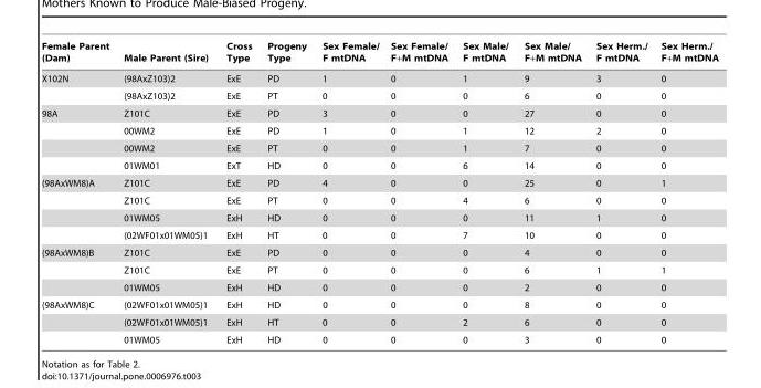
<table><thead><tr><td>Female Parent (Dam)</td><td>Male Parent (Sire)</td><td>Cross Type</td><td>Progeny Type</td><td>Sex Female/ F mtDNA</td><td>Sex Female/ F+M mtDNA</td><td>Sex Male/ F mtDNA</td><td>Sex Male/ F+M mtDNA</td><td>Sex Herm./ F mtDNA</td><td>Sex Herm./ F+M mtDNA</td></tr></thead><tbody><tr><td rowspan="2">X102N</td><td>(98AxZ103)2</td><td>ExE</td><td>PD</td><td>1</td><td>0</td><td>1</td><td>9</td><td>3</td><td>0</td></tr><tr><td>(98AxZ103)2</td><td>ExE</td><td>PT</td><td>0</td><td>0</td><td>0</td><td>6</td><td>0</td><td>0</td></tr><tr><td rowspan="4">98A</td><td>Z101C</td><td>ExE</td><td>PD</td><td>3</td><td>0</td><td>0</td><td>27</td><td>0</td><td>0</td></tr><tr><td>00WM2</td><td>ExE</td><td>PD</td><td>1</td><td>0</td><td>1</td><td>12</td><td>2</td><td>0</td></tr><tr><td>00WM2</td><td>ExE</td><td>PT</td><td>0</td><td>0</td><td>1</td><td>7</td><td>0</td><td>0</td></tr><tr><td>01WM01</td><td>ExT</td><td>HD</td><td>0</td><td>0</td><td>6</td><td>14</td><td>0</td><td>0</td></tr><tr><td rowspan="4">(98AxWM8)A</td><td>Z101C</td><td>ExE</td><td>PD</td><td>4</td><td>0</td><td>0</td><td>25</td><td>0</td><td>1</td></tr><tr><td>Z101C</td><td>ExE</td><td>PT</td><td>0</td><td>0</td><td>4</td><td>6</td><td>0</td><td>0</td></tr><tr><td>01WM05</td><td>ExH</td><td>HD</td><td>0</td><td>0</td><td>0</td><td>11</td><td>1</td><td>0</td></tr><tr><td>(02WF01x01WM05)1</td><td>ExH</td><td>HT</td><td>0</td><td>0</td><td>7</td><td>10</td><td>0</td><td>0</td></tr><tr><td rowspan="3">(98AxWM8)B</td><td>Z101C</td><td>ExE</td><td>PD</td><td>0</td><td>0</td><td>0</td><td>4</td><td>0</td><td>0</td></tr><tr><td>Z101C</td><td>ExE</td><td>PT</td><td>0</td><td>0</td><td>0</td><td>6</td><td>1</td><td>1</td></tr><tr><td>01WM05</td><td>ExH</td><td>HD</td><td>0</td><td>0</td><td>0</td><td>2</td><td>0</td><td>0</td></tr><tr><td rowspan="3">(98AxWM8)C</td><td>(02WF01x01WM05)1</td><td>ExH</td><td>HD</td><td>0</td><td>0</td><td>0</td><td>8</td><td>0</td><td>0</td></tr><tr><td>(02WF01x01WM05)1</td><td>ExH</td><td>HT</td><td>0</td><td>0</td><td>2</td><td>6</td><td>0</td><td>0</td></tr><tr><td>01WM05</td><td>ExH</td><td>HD</td><td>0</td><td>0</td><td>0</td><td>3</td><td>0</td><td>0</td></tr></tbody></table>